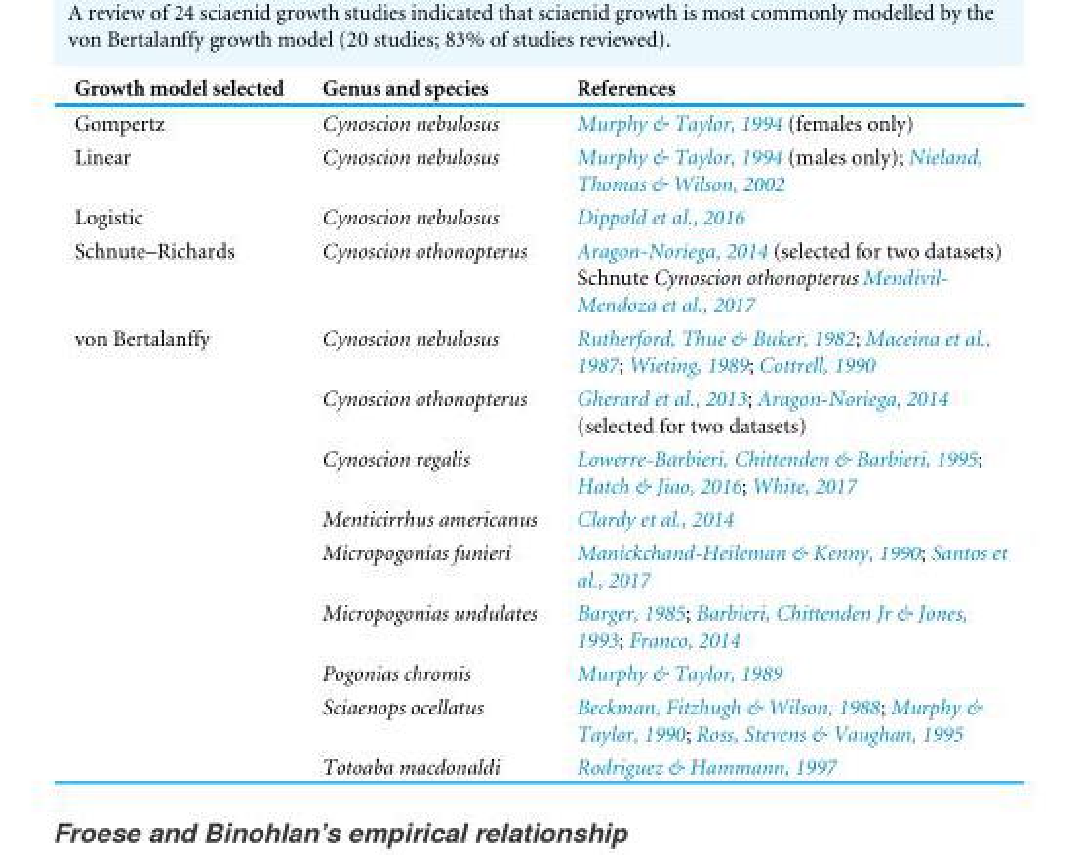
<table><thead><tr><td>Growth model selected</td><td>Genus and species</td><td>References</td></tr></thead><tbody><tr><td>Gompertz</td><td>Cynoscion nebulosus</td><td>Murphy &amp; Taylor, 1994 (females only)</td></tr><tr><td>Linear</td><td>Cynoscion nebulosus</td><td>Murphy &amp; Taylor, 1994 (males only); Nieland, Thomas &amp; Wilson, 2002</td></tr><tr><td>Logistic</td><td>Cynoscion nebulosus</td><td>Dippold et al., 2016</td></tr><tr><td>Schnute–Richards</td><td>Cynoscion othonopterus</td><td>Aragon-Noriega, 2014 (selected for two datasets) Schnute Cynoscion othonopterus Mendivil- Mendoza et al., 2017</td></tr><tr><td rowspan="9">von Bertalanffy</td><td>Cynoscion nebulosus</td><td>Rutherford, Thue &amp; Buker, 1982; Maceina et al., 1987; Wieting, 1989; Cottrell, 1990</td></tr><tr><td>Cynoscion othonopterus</td><td>Gherard et al., 2013; Aragon-Noriega, 2014 (selected for two datasets)</td></tr><tr><td>Cynoscion regalis</td><td>Lowerre-Barbieri, Chittenden &amp; Barbieri, 1995; Hatch &amp; Jiao, 2016; White, 2017</td></tr><tr><td>Menticirrhus americanus</td><td>Clardy et al., 2014</td></tr><tr><td>Micropogonias funieri</td><td>Manickchand-Heileman &amp; Kenny, 1990; Santos et al., 2017</td></tr><tr><td>Micropogonias undulates</td><td>Barger, 1985; Barbieri, Chittenden Jr &amp; Jones, 1993; Franco, 2014</td></tr><tr><td>Pogonias chromis</td><td>Murphy &amp; Taylor, 1989</td></tr><tr><td>Sciaenops ocellatus</td><td>Beckman, Fitzhugh &amp; Wilson, 1988; Murphy &amp; Taylor, 1990; Ross, Stevens &amp; Vaughan, 1995</td></tr><tr><td>Totoaba macdonaldi</td><td>Rodriguez &amp; Hammann, 1997</td></tr></tbody></table>